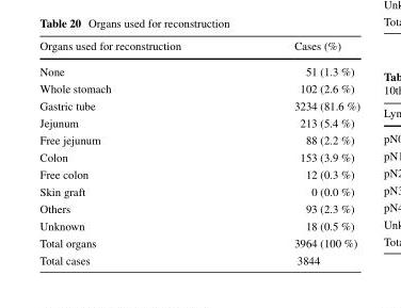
<table><thead><tr><td>Organs used for reconstruction</td><td>Cases (%)</td></tr></thead><tbody><tr><td>None</td><td>51 (1.3 %)</td></tr><tr><td>Whole stomach</td><td>102 (2.6 %)</td></tr><tr><td>Gastric tube</td><td>3234 (81.6 %)</td></tr><tr><td>Jejunum</td><td>213 (5.4 %)</td></tr><tr><td>Free jejunum</td><td>88 (2.2 %)</td></tr><tr><td>Colon</td><td>153 (3.9 %)</td></tr><tr><td>Free colon</td><td>12 (0.3 %)</td></tr><tr><td>Skin graft</td><td>0 (0.0 %)</td></tr><tr><td>Others</td><td>93 (2.3 %)</td></tr><tr><td>Unknown</td><td>18 (0.5 %)</td></tr><tr><td>Total organs</td><td>3964 (100 %)</td></tr><tr><td>Total cases</td><td>3844</td></tr></tbody></table>